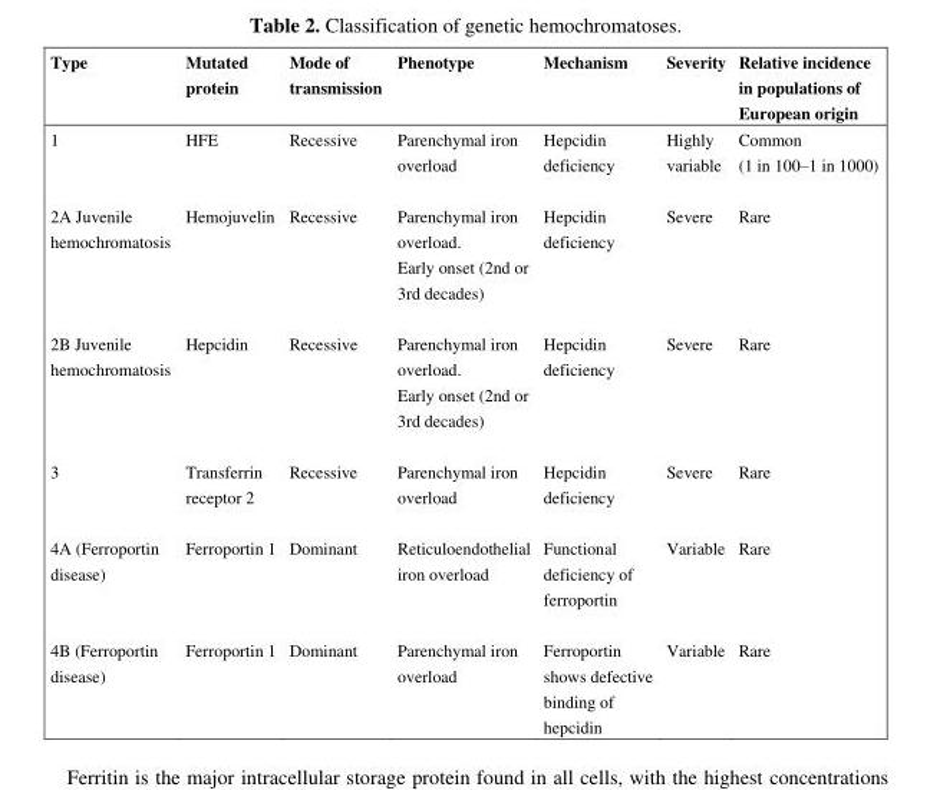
<table><thead><tr><td>Type</td><td>Mutated protein</td><td>Mode of transmission</td><td>Phenotype</td><td>Mechanism</td><td>Severity</td><td>Relative incidence in populations of European origin</td></tr></thead><tbody><tr><td>1</td><td>HFE</td><td>Recessive</td><td>Parenchymal iron overload</td><td>Hepcidin deficiency</td><td>Highly variable</td><td>Common (1 in 100–1 in 1000)</td></tr><tr><td>2A Juvenile hemochromatosis</td><td>Hemojuvelin</td><td>Recessive</td><td>Parenchymal iron overload. Early onset (2nd or 3rd decades)</td><td>Hepcidin deficiency</td><td>Severe</td><td>Rare</td></tr><tr><td>2B Juvenile hemochromatosis</td><td>Hepcidin</td><td>Recessive</td><td>Parenchymal iron overload. Early onset (2nd or 3rd decades)</td><td>Hepcidin deficiency</td><td>Severe</td><td>Rare</td></tr><tr><td>3</td><td>Transferrin receptor 2</td><td>Recessive</td><td>Parenchymal iron overload</td><td>Hepcidin deficiency</td><td>Severe</td><td>Rare</td></tr><tr><td>4A (Ferroportin disease)</td><td>Ferroportin 1</td><td>Dominant</td><td>Reticuloendothelial iron overload</td><td>Functional deficiency of ferroportin</td><td>Variable</td><td>Rare</td></tr><tr><td>4B (Ferroportin disease)</td><td>Ferroportin 1</td><td>Dominant</td><td>Parenchymal iron overload</td><td>Ferroportin shows defective binding of hepcidin</td><td>Variable</td><td>Rare</td></tr></tbody></table>